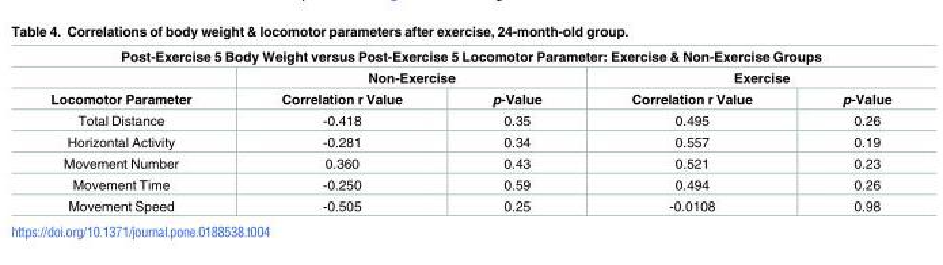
<table><thead><tr><td colspan="5">Post-Exercise 5 Body Weight versus Post-Exercise 5 Locomotor Parameter: Exercise &amp; Non-Exercise Groups</td></tr><tr><td rowspan="2">Locomotor Parameter</td><td colspan="2">Non-Exercise</td><td colspan="2">Exercise</td></tr><tr><td>Correlation r Value</td><td>p-Value</td><td>Correlation r Value</td><td>p-Value</td></tr></thead><tbody><tr><td>Total Distance</td><td>-0.418</td><td>0.35</td><td>0.495</td><td>0.26</td></tr><tr><td>Horizontal Activity</td><td>-0.281</td><td>0.34</td><td>0.557</td><td>0.19</td></tr><tr><td>Movement Number</td><td>0.360</td><td>0.43</td><td>0.521</td><td>0.23</td></tr><tr><td>Movement Time</td><td>-0.250</td><td>0.59</td><td>0.494</td><td>0.26</td></tr><tr><td>Movement Speed</td><td>-0.505</td><td>0.25</td><td>-0.0108</td><td>0.98</td></tr></tbody></table>